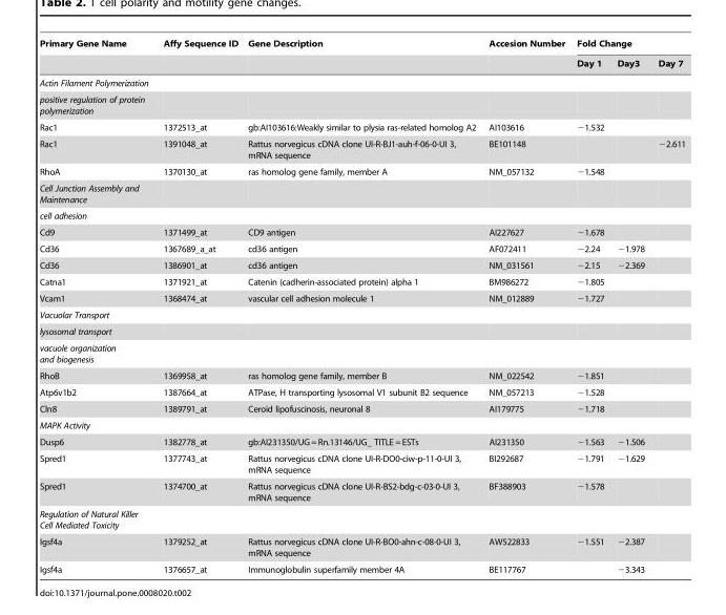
<table><thead><tr><td rowspan="2">Primary Gene Name</td><td rowspan="2">Affy Sequence ID</td><td rowspan="2">Gene Description</td><td rowspan="2">Accesion Number</td><td colspan="3">Fold Change</td></tr><tr><td>Day 1</td><td>Day3</td><td>Day 7</td></tr></thead><tbody><tr><td colspan="7">Actin Filament Polymerization</td></tr><tr><td colspan="7">positive regulation of protein polymerization</td></tr><tr><td>Rac1</td><td>1372513_at</td><td>gb:AI103616:Weakly similar to plysia ras-related homolog A2</td><td>AI103616</td><td>−1.532</td><td></td><td></td></tr><tr><td>Rac1</td><td>1391048_at</td><td>Rattus norvegicus cDNA clone UI-R-BJ1-auh-f-06-0-UI 3, mRNA sequence</td><td>BE101148</td><td></td><td></td><td>−2.611</td></tr><tr><td>RhoA</td><td>1370130_at</td><td>ras homolog gene family, member A</td><td>NM_057132</td><td>−1.548</td><td></td><td></td></tr><tr><td colspan="7">Cell Junction Assembly and Maintenance</td></tr><tr><td colspan="7">cell adhesion</td></tr><tr><td>Cd9</td><td>1371499_at</td><td>CD9 antigen</td><td>AI227627</td><td>−1.678</td><td></td><td></td></tr><tr><td>Cd36</td><td>1367689_a_at</td><td>cd36 antigen</td><td>AF072411</td><td>−2.24</td><td>−1.978</td><td></td></tr><tr><td>Cd36</td><td>1386901_at</td><td>cd36 antigen</td><td>NM_031561</td><td>−2.15</td><td>−2.369</td><td></td></tr><tr><td>Catna1</td><td>1371921_at</td><td>Catenin (cadherin-associated protein) alpha 1</td><td>BM986272</td><td>−1.805</td><td></td><td></td></tr><tr><td>Vcam1</td><td>1368474_at</td><td>vascular cell adhesion molecule 1</td><td>NM_012889</td><td>−1.727</td><td></td><td></td></tr><tr><td colspan="7">Vacuolar Transport</td></tr><tr><td colspan="7">lysosomal transport</td></tr><tr><td colspan="7">vacuole organization and biogenesis</td></tr><tr><td>RhoB</td><td>1369958_at</td><td>ras homolog gene family, member B</td><td>NM_022542</td><td>−1.851</td><td></td><td></td></tr><tr><td>Atp6v1b2</td><td>1387664_at</td><td>ATPase, H transporting lysosomal V1 subunit B2 sequence</td><td>NM_057213</td><td>−1.528</td><td></td><td></td></tr><tr><td>Cln8</td><td>1389791_at</td><td>Ceroid lipofuscinosis, neuronal 8</td><td>AI179775</td><td>−1.718</td><td></td><td></td></tr><tr><td colspan="7">MAPK Activity</td></tr><tr><td>Dusp6</td><td>1382778_at</td><td>gb:AI231350/UG =Rn.13146/UG_ TITLE =ESTs</td><td>AI231350</td><td>−1.563</td><td>−1.506</td><td></td></tr><tr><td>Spred1</td><td>1377743_at</td><td>Rattus norvegicus cDNA clone UI-R-DO0-ciw-p-11-0-UI 3, mRNA sequence</td><td>BI292687</td><td>−1.791</td><td>−1.629</td><td></td></tr><tr><td>Spred1</td><td>1374700_at</td><td>Rattus norvegicus cDNA clone UI-R-BS2-bdg-c-03-0-UI 3, mRNA sequence</td><td>BF388903</td><td>−1.578</td><td></td><td></td></tr><tr><td colspan="7">Regulation of Natural Killer Cell Mediated Toxicity</td></tr><tr><td>Igsf4a</td><td>1379252_at</td><td>Rattus norvegicus cDNA clone UI-R-BO0-ahn-c-08-0-UI 3, mRNA sequence</td><td>AW522833</td><td>−1.551</td><td>−2.387</td><td></td></tr><tr><td>Igsf4a</td><td>1376657_at</td><td>Immunoglobulin superfamily member 4A</td><td>BE117767</td><td></td><td>−3.343</td><td></td></tr></tbody></table>